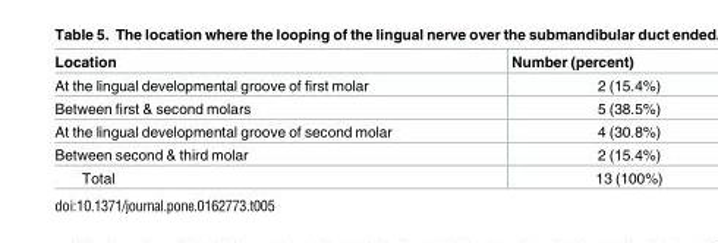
<table><thead><tr><td>Location</td><td>Number (percent)</td></tr></thead><tbody><tr><td>At the lingual developmental groove of first molar</td><td>2 (15.4%)</td></tr><tr><td>Between first &amp; second molars</td><td>5 (38.5%)</td></tr><tr><td>At the lingual developmental groove of second molar</td><td>4 (30.8%)</td></tr><tr><td>Between second &amp; third molar</td><td>2 (15.4%)</td></tr><tr><td>Total</td><td>13 (100%)</td></tr></tbody></table>